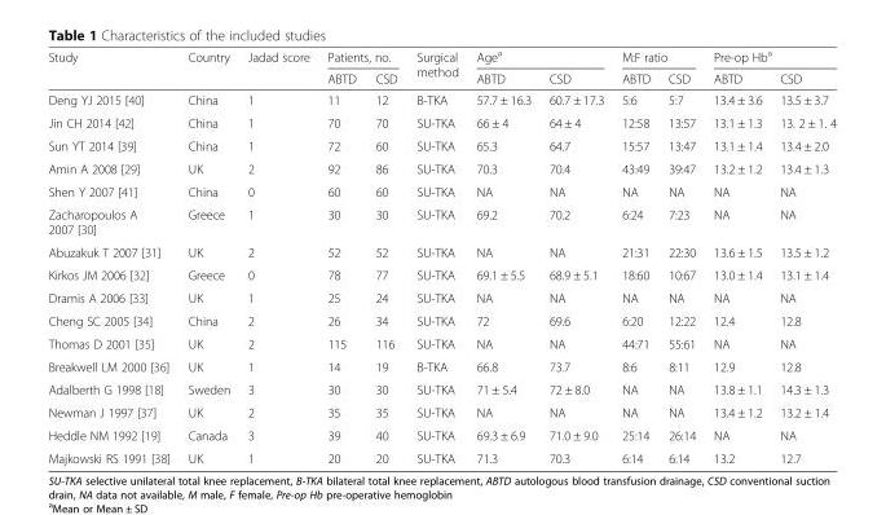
<table><thead><tr><td rowspan="2">Study</td><td rowspan="2">Country</td><td rowspan="2">Jadad score</td><td colspan="2">Patients, no.</td><td rowspan="2">Surgical method</td><td colspan="2">Age<sup>a</sup></td><td colspan="2">M:F ratio</td><td colspan="2">Pre-op Hb<sup>a</sup></td></tr><tr><td>ABTD</td><td>CSD</td><td>ABTD</td><td>CSD</td><td>ABTD</td><td>CSD</td><td>ABTD</td><td>CSD</td></tr></thead><tbody><tr><td>Deng YJ 2015 [40]</td><td>China</td><td>1</td><td>11</td><td>12</td><td>B-TKA</td><td>57.7 ± 16.3</td><td>60.7 ± 17.3</td><td>5:6</td><td>5:7</td><td>13.4 ± 3.6</td><td>13.5 ± 3.7</td></tr><tr><td>Jin CH 2014 [42]</td><td>China</td><td>1</td><td>70</td><td>70</td><td>SU-TKA</td><td>66 ± 4</td><td>64 ± 4</td><td>12:58</td><td>13:57</td><td>13.1 ± 1.3</td><td>13. 2 ± 1. 4</td></tr><tr><td>Sun YT 2014 [39]</td><td>China</td><td>1</td><td>72</td><td>60</td><td>SU-TKA</td><td>65.3</td><td>64.7</td><td>15:57</td><td>13:47</td><td>13.1 ± 1.4</td><td>13.4 ± 2.0</td></tr><tr><td>Amin A 2008 [29]</td><td>UK</td><td>2</td><td>92</td><td>86</td><td>SU-TKA</td><td>70.3</td><td>70.4</td><td>43:49</td><td>39:47</td><td>13.2 ± 1.2</td><td>13.4 ± 1.3</td></tr><tr><td>Shen Y 2007 [41]</td><td>China</td><td>0</td><td>60</td><td>60</td><td>SU-TKA</td><td>NA</td><td>NA</td><td>NA</td><td>NA</td><td>NA</td><td>NA</td></tr><tr><td>Zacharopoulos A 2007 [30]</td><td>Greece</td><td>1</td><td>30</td><td>30</td><td>SU-TKA</td><td>69.2</td><td>70.2</td><td>6:24</td><td>7:23</td><td>NA</td><td>NA</td></tr><tr><td>Abuzakuk T 2007 [31]</td><td>UK</td><td>2</td><td>52</td><td>52</td><td>SU-TKA</td><td>NA</td><td>NA</td><td>21:31</td><td>22:30</td><td>13.6 ± 1.5</td><td>13.5 ± 1.2</td></tr><tr><td>Kirkos JM 2006 [32]</td><td>Greece</td><td>0</td><td>78</td><td>77</td><td>SU-TKA</td><td>69.1 ± 5.5</td><td>68.9 ± 5.1</td><td>18:60</td><td>10:67</td><td>13.0 ± 1.4</td><td>13.1 ± 1.4</td></tr><tr><td>Dramis A 2006 [33]</td><td>UK</td><td>1</td><td>25</td><td>24</td><td>SU-TKA</td><td>NA</td><td>NA</td><td>NA</td><td>NA</td><td>NA</td><td>NA</td></tr><tr><td>Cheng SC 2005 [34]</td><td>China</td><td>2</td><td>26</td><td>34</td><td>SU-TKA</td><td>72</td><td>69.6</td><td>6:20</td><td>12:22</td><td>12.4</td><td>12.8</td></tr><tr><td>Thomas D 2001 [35]</td><td>UK</td><td>2</td><td>115</td><td>116</td><td>SU-TKA</td><td>NA</td><td>NA</td><td>44:71</td><td>55:61</td><td>NA</td><td>NA</td></tr><tr><td>Breakwell LM 2000 [36]</td><td>UK</td><td>1</td><td>14</td><td>19</td><td>B-TKA</td><td>66.8</td><td>73.7</td><td>8:6</td><td>8:11</td><td>12.9</td><td>12.8</td></tr><tr><td>Adalberth G 1998 [18]</td><td>Sweden</td><td>3</td><td>30</td><td>30</td><td>SU-TKA</td><td>71 ± 5.4</td><td>72 ± 8.0</td><td>NA</td><td>NA</td><td>13.8 ± 1.1</td><td>14.3 ± 1.3</td></tr><tr><td>Newman J 1997 [37]</td><td>UK</td><td>2</td><td>35</td><td>35</td><td>SU-TKA</td><td>NA</td><td>NA</td><td>NA</td><td>NA</td><td>13.4 ± 1.2</td><td>13.2 ± 1.4</td></tr><tr><td>Heddle NM 1992 [19]</td><td>Canada</td><td>3</td><td>39</td><td>40</td><td>SU-TKA</td><td>69.3 ± 6.9</td><td>71.0 ± 9.0</td><td>25:14</td><td>26:14</td><td>NA</td><td>NA</td></tr><tr><td>Majkowski RS 1991 [38]</td><td>UK</td><td>1</td><td>20</td><td>20</td><td>SU-TKA</td><td>71.3</td><td>70.3</td><td>6:14</td><td>6:14</td><td>13.2</td><td>12.7</td></tr></tbody></table>